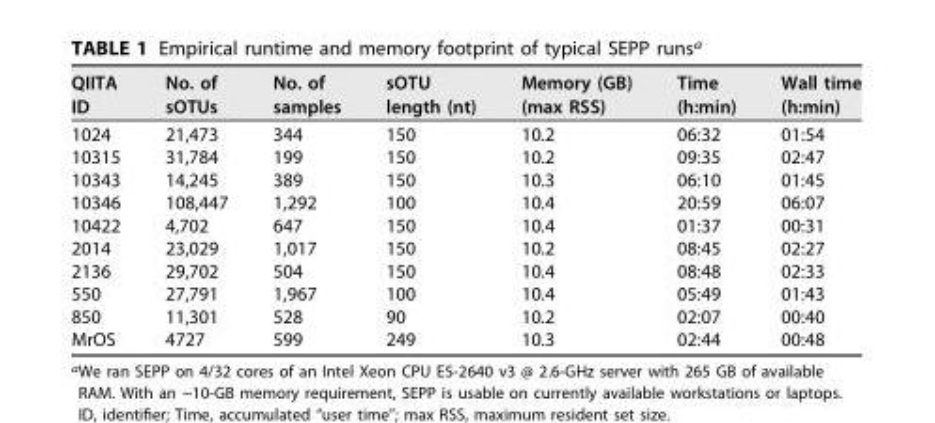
<table><thead><tr><td>QIITA ID</td><td>No. of sOTUs</td><td>No. of samples</td><td>sOTU length (nt)</td><td>Memory (GB) (max RSS)</td><td>Time (h:min)</td><td>Wall time (h:min)</td></tr></thead><tbody><tr><td>1024</td><td>21,473</td><td>344</td><td>150</td><td>10.2</td><td>06:32</td><td>01:54</td></tr><tr><td>10315</td><td>31,784</td><td>199</td><td>150</td><td>10.2</td><td>09:35</td><td>02:47</td></tr><tr><td>10343</td><td>14,245</td><td>389</td><td>150</td><td>10.3</td><td>06:10</td><td>01:45</td></tr><tr><td>10346</td><td>108,447</td><td>1,292</td><td>100</td><td>10.4</td><td>20:59</td><td>06:07</td></tr><tr><td>10422</td><td>4,702</td><td>647</td><td>150</td><td>10.4</td><td>01:37</td><td>00:31</td></tr><tr><td>2014</td><td>23,029</td><td>1,017</td><td>150</td><td>10.2</td><td>08:45</td><td>02:27</td></tr><tr><td>2136</td><td>29,702</td><td>504</td><td>150</td><td>10.4</td><td>08:48</td><td>02:33</td></tr><tr><td>550</td><td>27,791</td><td>1,967</td><td>100</td><td>10.4</td><td>05:49</td><td>01:43</td></tr><tr><td>850</td><td>11,301</td><td>528</td><td>90</td><td>10.2</td><td>02:07</td><td>00:40</td></tr><tr><td>MrOS</td><td>4727</td><td>599</td><td>249</td><td>10.3</td><td>02:44</td><td>00:48</td></tr></tbody></table>